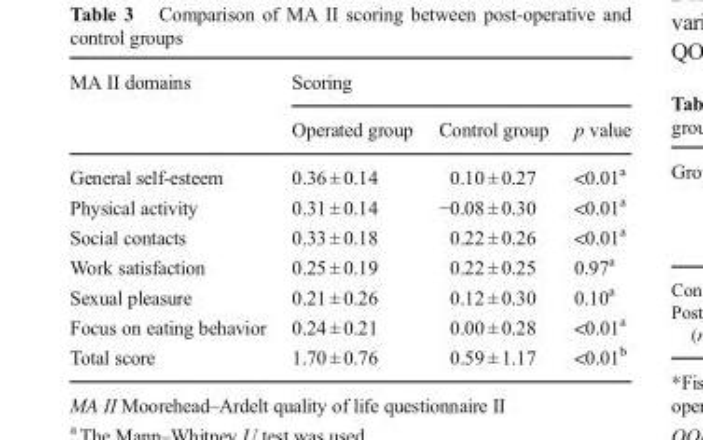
<table><thead><tr><td rowspan="2">MA II domains</td><td colspan="3">Scoring</td></tr><tr><td>Operated group</td><td>Control group</td><td>p value</td></tr></thead><tbody><tr><td>General self-esteem</td><td>0.36 ± 0.14</td><td>0.10 ± 0.27</td><td>&lt;0.01<sup>a</sup></td></tr><tr><td>Physical activity</td><td>0.31 ± 0.14</td><td>−0.08 ± 0.30</td><td>&lt;0.01<sup>a</sup></td></tr><tr><td>Social contacts</td><td>0.33 ± 0.18</td><td>0.22 ± 0.26</td><td>&lt;0.01<sup>a</sup></td></tr><tr><td>Work satisfaction</td><td>0.25 ± 0.19</td><td>0.22 ± 0.25</td><td>0.97<sup>a</sup></td></tr><tr><td>Sexual pleasure</td><td>0.21 ± 0.26</td><td>0.12 ± 0.30</td><td>0.10<sup>a</sup></td></tr><tr><td>Focus on eating behavior</td><td>0.24 ± 0.21</td><td>0.00 ± 0.28</td><td>&lt;0.01<sup>a</sup></td></tr><tr><td>Total score</td><td>1.70 ± 0.76</td><td>0.59 ± 1.17</td><td>&lt;0.01<sup>b</sup></td></tr></tbody></table>